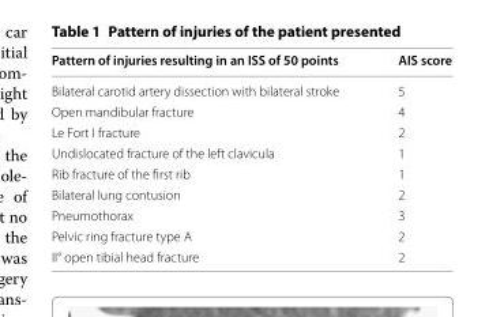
<table><thead><tr><td>Pattern of injuries resulting in an ISS of 50 points</td><td>AIS score</td></tr></thead><tbody><tr><td>Bilateral carotid artery dissection with bilateral stroke</td><td>5</td></tr><tr><td>Open mandibular fracture</td><td>4</td></tr><tr><td>Le Fort I fracture</td><td>2</td></tr><tr><td>Undislocated fracture of the left clavicula</td><td>1</td></tr><tr><td>Rib fracture of the first rib</td><td>1</td></tr><tr><td>Bilateral lung contusion</td><td>2</td></tr><tr><td>Pneumothorax</td><td>3</td></tr><tr><td>Pelvic ring fracture type A</td><td>2</td></tr><tr><td>II° open tibial head fracture</td><td>2</td></tr></tbody></table>